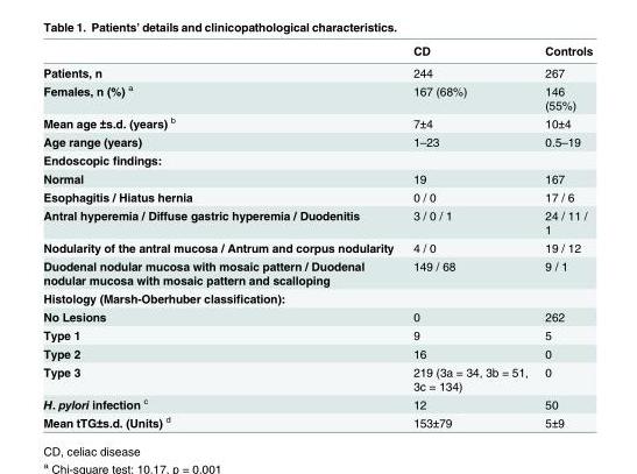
<table><thead><tr><td></td><td>CD</td><td>Controls</td></tr></thead><tbody><tr><td>Patients, n</td><td>244</td><td>267</td></tr><tr><td>Females, n (%) <sup>a</sup></td><td>167 (68%)</td><td>146 (55%)</td></tr><tr><td>Mean age ±s.d. (years) <sup>b</sup></td><td>7±4</td><td>10±4</td></tr><tr><td>Age range (years)</td><td>1–23</td><td>0.5–19</td></tr><tr><td colspan="3">Endoscopic findings:</td></tr><tr><td>Normal</td><td>19</td><td>167</td></tr><tr><td>Esophagitis / Hiatus hernia</td><td>0 / 0</td><td>17 / 6</td></tr><tr><td>Antral hyperemia / Diffuse gastric hyperemia / Duodenitis</td><td>3 / 0 / 1</td><td>24 / 11 / 1</td></tr><tr><td>Nodularity of the antral mucosa / Antrum and corpus nodularity</td><td>4 / 0</td><td>19 / 12</td></tr><tr><td>Duodenal nodular mucosa with mosaic pattern / Duodenal nodular mucosa with mosaic pattern and scalloping</td><td>149 / 68</td><td>9 / 1</td></tr><tr><td colspan="3">Histology (Marsh-Oberhuber classification):</td></tr><tr><td>No Lesions</td><td>0</td><td>262</td></tr><tr><td>Type 1</td><td>9</td><td>5</td></tr><tr><td>Type 2</td><td>16</td><td>0</td></tr><tr><td>Type 3</td><td>219 (3a = 34, 3b = 51, 3c = 134)</td><td>0</td></tr><tr><td>H. pylori infection <sup>c</sup></td><td>12</td><td>50</td></tr><tr><td>Mean tTG±s.d. (Units) <sup>d</sup></td><td>153±79</td><td>5±9</td></tr></tbody></table>